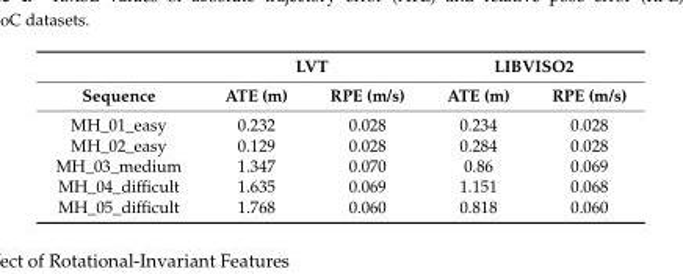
<table><thead><tr><td rowspan="2">Sequence</td><td colspan="2">LVT</td><td colspan="2">LIBVISO2</td></tr><tr><td>ATE (m)</td><td>RPE (m/s)</td><td>ATE (m)</td><td>RPE (m/s)</td></tr></thead><tbody><tr><td>MH_01_easy</td><td>0.232</td><td>0.028</td><td>0.234</td><td>0.028</td></tr><tr><td>MH_02_easy</td><td>0.129</td><td>0.028</td><td>0.284</td><td>0.028</td></tr><tr><td>MH_03_medium</td><td>1.347</td><td>0.070</td><td>0.86</td><td>0.069</td></tr><tr><td>MH_04_difficult</td><td>1.635</td><td>0.069</td><td>1.151</td><td>0.068</td></tr><tr><td>MH_05_difficult</td><td>1.768</td><td>0.060</td><td>0.818</td><td>0.060</td></tr></tbody></table>